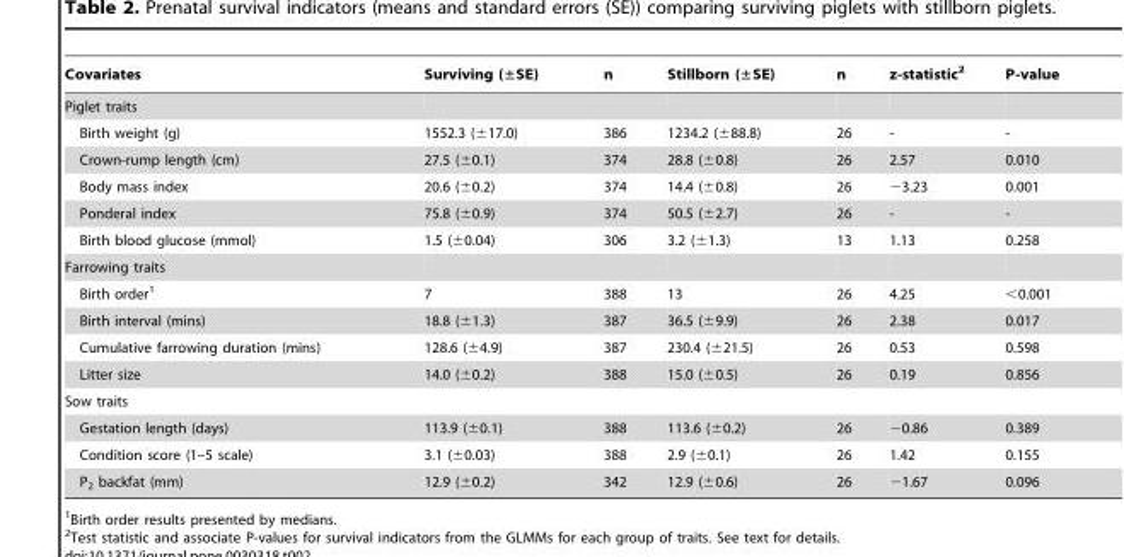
<table><thead><tr><td>Covariates</td><td>Surviving (±SE)</td><td>n</td><td>Stillborn (±SE)</td><td>n</td><td>z-statistic<sup>2</sup></td><td>P-value</td></tr></thead><tbody><tr><td colspan="7">Piglet traits</td></tr><tr><td>Birth weight (g)</td><td>1552.3 (±17.0)</td><td>386</td><td>1234.2 (±88.8)</td><td>26</td><td>-</td><td>-</td></tr><tr><td>Crown-rump length (cm)</td><td>27.5 (±0.1)</td><td>374</td><td>28.8 (±0.8)</td><td>26</td><td>2.57</td><td>0.010</td></tr><tr><td>Body mass index</td><td>20.6 (±0.2)</td><td>374</td><td>14.4 (±0.8)</td><td>26</td><td>−3.23</td><td>0.001</td></tr><tr><td>Ponderal index</td><td>75.8 (±0.9)</td><td>374</td><td>50.5 (±2.7)</td><td>26</td><td>-</td><td>-</td></tr><tr><td>Birth blood glucose (mmol)</td><td>1.5 (±0.04)</td><td>306</td><td>3.2 (±1.3)</td><td>13</td><td>1.13</td><td>0.258</td></tr><tr><td colspan="7">Farrowing traits</td></tr><tr><td>Birth order<sup>1</sup></td><td>7</td><td>388</td><td>13</td><td>26</td><td>4.25</td><td>&lt;0.001</td></tr><tr><td>Birth interval (mins)</td><td>18.8 (±1.3)</td><td>387</td><td>36.5 (±9.9)</td><td>26</td><td>2.38</td><td>0.017</td></tr><tr><td>Cumulative farrowing duration (mins)</td><td>128.6 (±4.9)</td><td>387</td><td>230.4 (±21.5)</td><td>26</td><td>0.53</td><td>0.598</td></tr><tr><td>Litter size</td><td>14.0 (±0.2)</td><td>388</td><td>15.0 (±0.5)</td><td>26</td><td>0.19</td><td>0.856</td></tr><tr><td colspan="7">Sow traits</td></tr><tr><td>Gestation length (days)</td><td>113.9 (±0.1)</td><td>388</td><td>113.6 (±0.2)</td><td>26</td><td>−0.86</td><td>0.389</td></tr><tr><td>Condition score (1–5 scale)</td><td>3.1 (±0.03)</td><td>388</td><td>2.9 (±0.1)</td><td>26</td><td>1.42</td><td>0.155</td></tr><tr><td>P<sub>2</sub> backfat (mm)</td><td>12.9 (±0.2)</td><td>342</td><td>12.9 (±0.6)</td><td>26</td><td>−1.67</td><td>0.096</td></tr></tbody></table>